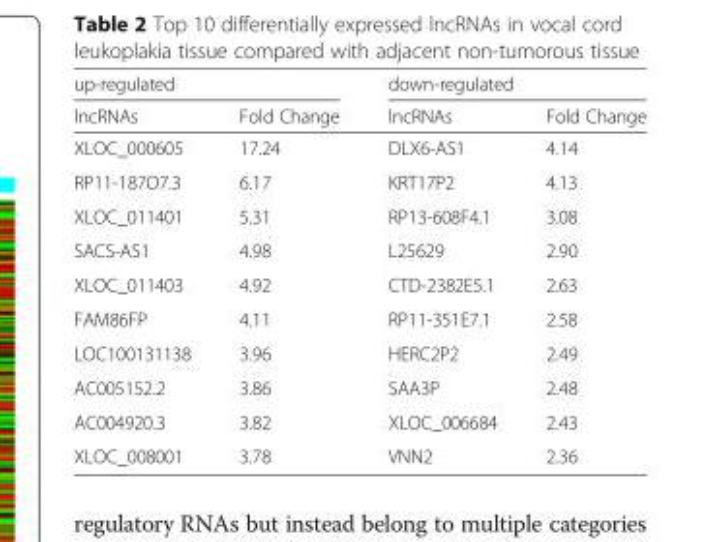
<table><thead><tr><td colspan="2">up-regulated</td><td colspan="2">down-regulated</td></tr><tr><td>lncRNAs</td><td>Fold Change</td><td>lncRNAs</td><td>Fold Change</td></tr></thead><tbody><tr><td>XLOC_000605</td><td>17.24</td><td>DLX6-AS1</td><td>4.14</td></tr><tr><td>RP11-187O7.3</td><td>6.17</td><td>KRT17P2</td><td>4.13</td></tr><tr><td>XLOC_011401</td><td>5.31</td><td>RP13-608F4.1</td><td>3.08</td></tr><tr><td>SACS-AS1</td><td>4.98</td><td>L25629</td><td>2.90</td></tr><tr><td>XLOC_011403</td><td>4.92</td><td>CTD-2382E5.1</td><td>2.63</td></tr><tr><td>FAM86FP</td><td>4.11</td><td>RP11-351E7.1</td><td>2.58</td></tr><tr><td>LOC100131138</td><td>3.96</td><td>HERC2P2</td><td>2.49</td></tr><tr><td>AC005152.2</td><td>3.86</td><td>SAA3P</td><td>2.48</td></tr><tr><td>AC004920.3</td><td>3.82</td><td>XLOC_006684</td><td>2.43</td></tr><tr><td>XLOC_008001</td><td>3.78</td><td>VNN2</td><td>2.36</td></tr></tbody></table>